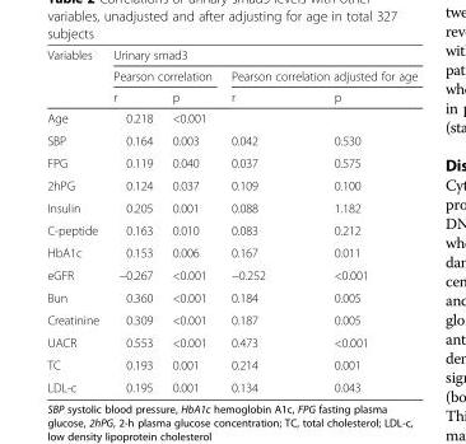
<table><thead><tr><td rowspan="3">Variables</td><td colspan="4">Urinary smad3</td></tr><tr><td colspan="2">Pearson correlation</td><td colspan="2">Pearson correlation adjusted for age</td></tr><tr><td>r</td><td>p</td><td>r</td><td>p</td></tr></thead><tbody><tr><td>Age</td><td>0.218</td><td>&lt;0.001</td><td></td><td></td></tr><tr><td>SBP</td><td>0.164</td><td>0.003</td><td>0.042</td><td>0.530</td></tr><tr><td>FPG</td><td>0.119</td><td>0.040</td><td>0.037</td><td>0.575</td></tr><tr><td>2hPG</td><td>0.124</td><td>0.037</td><td>0.109</td><td>0.100</td></tr><tr><td>Insulin</td><td>0.205</td><td>0.001</td><td>0.088</td><td>1.182</td></tr><tr><td>C-peptide</td><td>0.163</td><td>0.010</td><td>0.083</td><td>0.212</td></tr><tr><td>HbA1c</td><td>0.153</td><td>0.006</td><td>0.167</td><td>0.011</td></tr><tr><td>eGFR</td><td>−0.267</td><td>&lt;0.001</td><td>−0.252</td><td>&lt;0.001</td></tr><tr><td>Bun</td><td>0.360</td><td>&lt;0.001</td><td>0.184</td><td>0.005</td></tr><tr><td>Creatinine</td><td>0.309</td><td>&lt;0.001</td><td>0.187</td><td>0.005</td></tr><tr><td>UACR</td><td>0.553</td><td>&lt;0.001</td><td>0.473</td><td>&lt;0.001</td></tr><tr><td>TC</td><td>0.193</td><td>0.001</td><td>0.214</td><td>0.001</td></tr><tr><td>LDL-c</td><td>0.195</td><td>0.001</td><td>0.134</td><td>0.043</td></tr></tbody></table>